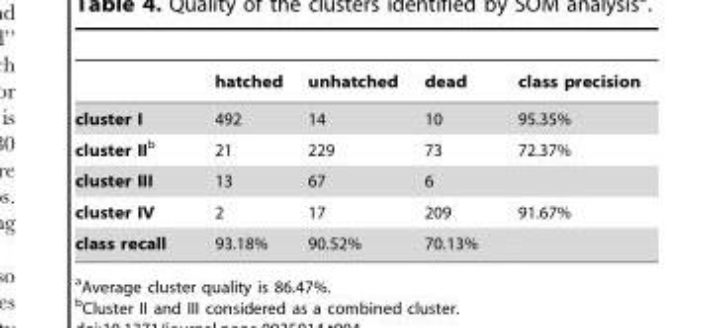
<table><thead><tr><td></td><td>hatched</td><td>unhatched</td><td>dead</td><td>class precision</td></tr></thead><tbody><tr><td>cluster I</td><td>492</td><td>14</td><td>10</td><td>95.35%</td></tr><tr><td>cluster IIb</td><td>21</td><td>229</td><td>73</td><td>72.37%</td></tr><tr><td>cluster III</td><td>13</td><td>67</td><td>6</td><td></td></tr><tr><td>cluster IV</td><td>2</td><td>17</td><td>209</td><td>91.67%</td></tr><tr><td>class recall</td><td>93.18%</td><td>90.52%</td><td>70.13%</td><td></td></tr></tbody></table>